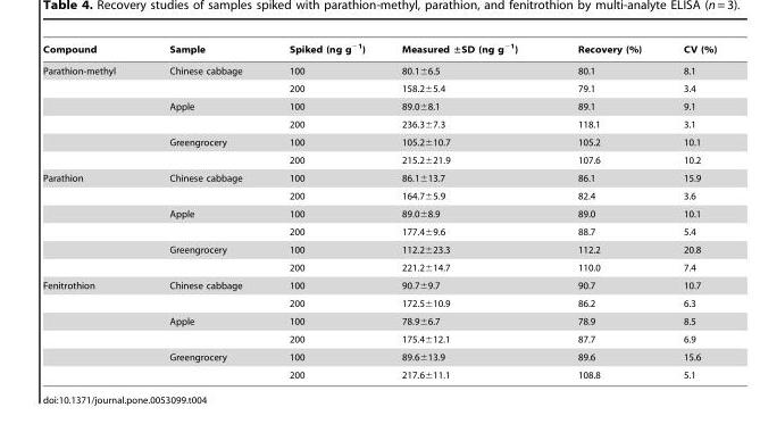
<table><thead><tr><td>Compound</td><td>Sample</td><td>Spiked (ng g<sup>−1</sup>)</td><td>Measured ±SD (ng g<sup>−1</sup>)</td><td>Recovery (%)</td><td>CV (%)</td></tr></thead><tbody><tr><td rowspan="6">Parathion-methyl</td><td>Chinese cabbage</td><td>100</td><td>80.1±6.5</td><td>80.1</td><td>8.1</td></tr><tr><td></td><td>200</td><td>158.2±5.4</td><td>79.1</td><td>3.4</td></tr><tr><td>Apple</td><td>100</td><td>89.0±8.1</td><td>89.1</td><td>9.1</td></tr><tr><td></td><td>200</td><td>236.3±7.3</td><td>118.1</td><td>3.1</td></tr><tr><td>Greengrocery</td><td>100</td><td>105.2±10.7</td><td>105.2</td><td>10.1</td></tr><tr><td></td><td>200</td><td>215.2±21.9</td><td>107.6</td><td>10.2</td></tr><tr><td rowspan="6">Parathion</td><td>Chinese cabbage</td><td>100</td><td>86.1±13.7</td><td>86.1</td><td>15.9</td></tr><tr><td></td><td>200</td><td>164.7±5.9</td><td>82.4</td><td>3.6</td></tr><tr><td>Apple</td><td>100</td><td>89.0±8.9</td><td>89.0</td><td>10.1</td></tr><tr><td></td><td>200</td><td>177.4±9.6</td><td>88.7</td><td>5.4</td></tr><tr><td>Greengrocery</td><td>100</td><td>112.2±23.3</td><td>112.2</td><td>20.8</td></tr><tr><td></td><td>200</td><td>221.2±14.7</td><td>110.0</td><td>7.4</td></tr><tr><td rowspan="6">Fenitrothion</td><td>Chinese cabbage</td><td>100</td><td>90.7±9.7</td><td>90.7</td><td>10.7</td></tr><tr><td></td><td>200</td><td>172.5±10.9</td><td>86.2</td><td>6.3</td></tr><tr><td>Apple</td><td>100</td><td>78.9±6.7</td><td>78.9</td><td>8.5</td></tr><tr><td></td><td>200</td><td>175.4±12.1</td><td>87.7</td><td>6.9</td></tr><tr><td>Greengrocery</td><td>100</td><td>89.6±13.9</td><td>89.6</td><td>15.6</td></tr><tr><td></td><td>200</td><td>217.6±11.1</td><td>108.8</td><td>5.1</td></tr></tbody></table>